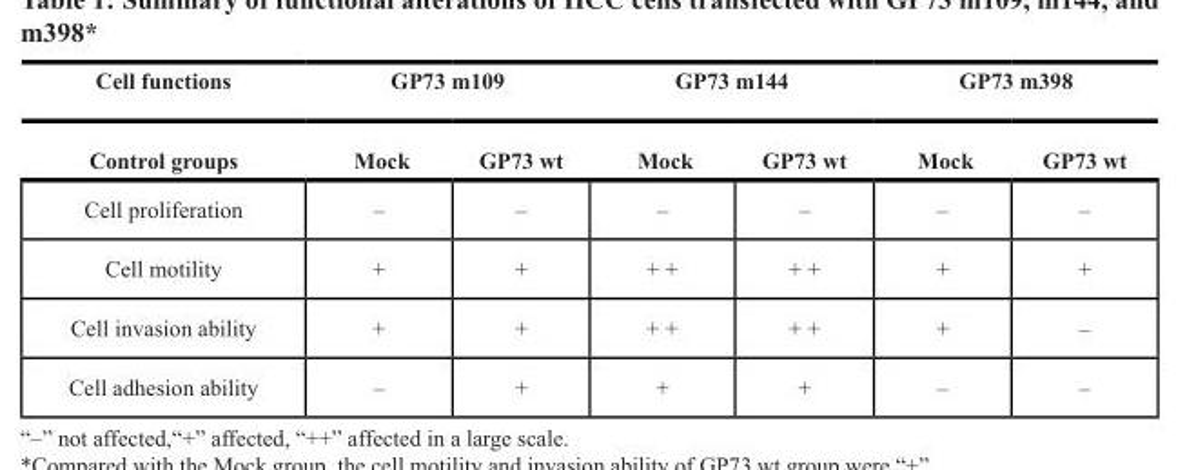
<table><thead><tr><td rowspan="2">Cell functions Control groups</td><td colspan="2">GP73 m109</td><td colspan="2">GP73 m144</td><td colspan="2">GP73 m398</td></tr><tr><td>Mock</td><td>GP73 wt</td><td>Mock</td><td>GP73 wt</td><td>Mock</td><td>GP73 wt</td></tr></thead><tbody><tr><td>Cell proliferation</td><td>–</td><td>–</td><td>–</td><td>–</td><td>–</td><td>–</td></tr><tr><td>Cell motility</td><td>+</td><td>+</td><td>+ +</td><td>+ +</td><td>+</td><td>+</td></tr><tr><td>Cell invasion ability</td><td>+</td><td>+</td><td>+ +</td><td>+ +</td><td>+</td><td>–</td></tr><tr><td>Cell adhesion ability</td><td>–</td><td>+</td><td>+</td><td>+</td><td>–</td><td>–</td></tr></tbody></table>